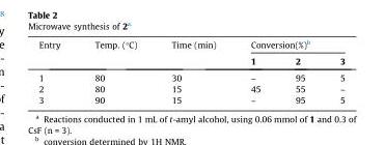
<table><thead><tr><td rowspan="2">Entry</td><td rowspan="2">Temp. (°C)</td><td rowspan="2">Time (min)</td><td colspan="3">Conversion(%)<sup>b</sup></td></tr><tr><td>1</td><td>2</td><td>3</td></tr></thead><tbody><tr><td>1</td><td>80</td><td>30</td><td>–</td><td>95</td><td>5</td></tr><tr><td>2</td><td>80</td><td>15</td><td>45</td><td>55</td><td>–</td></tr><tr><td>3</td><td>90</td><td>15</td><td>–</td><td>95</td><td>5</td></tr></tbody></table>